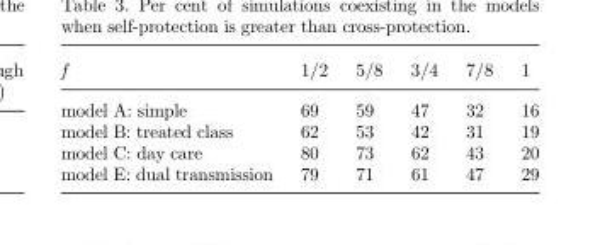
<table><thead><tr><td>f</td><td>1/2</td><td>5/8</td><td>3/4</td><td>7/8</td><td>1</td></tr></thead><tbody><tr><td>model A: simple</td><td>69</td><td>59</td><td>47</td><td>32</td><td>16</td></tr><tr><td>model B: treated class</td><td>62</td><td>53</td><td>42</td><td>31</td><td>19</td></tr><tr><td>model C: day care</td><td>80</td><td>73</td><td>62</td><td>43</td><td>20</td></tr><tr><td>model E: dual transmission</td><td>79</td><td>71</td><td>61</td><td>47</td><td>29</td></tr></tbody></table>